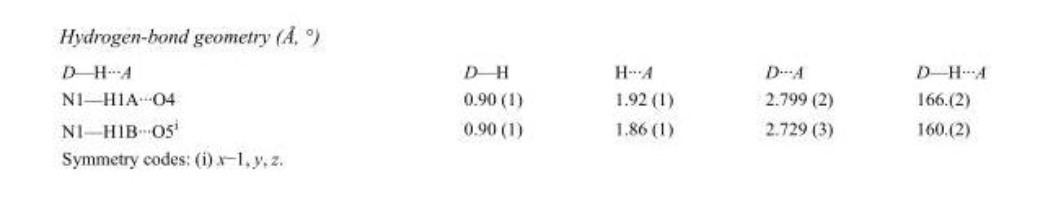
<table><tbody><tr><td>D—H···A</td><td>D—H</td><td>H···A</td><td>D···A</td><td>D—H···A</td></tr><tr><td>N1—H1A···O4</td><td>0.90 (1)</td><td>1.92 (1)</td><td>2.799 (2)</td><td>166.(2)</td></tr><tr><td>N1—H1B···O5<sup>i</sup></td><td>0.90 (1)</td><td>1.86 (1)</td><td>2.729 (3)</td><td>160.(2)</td></tr></tbody></table>